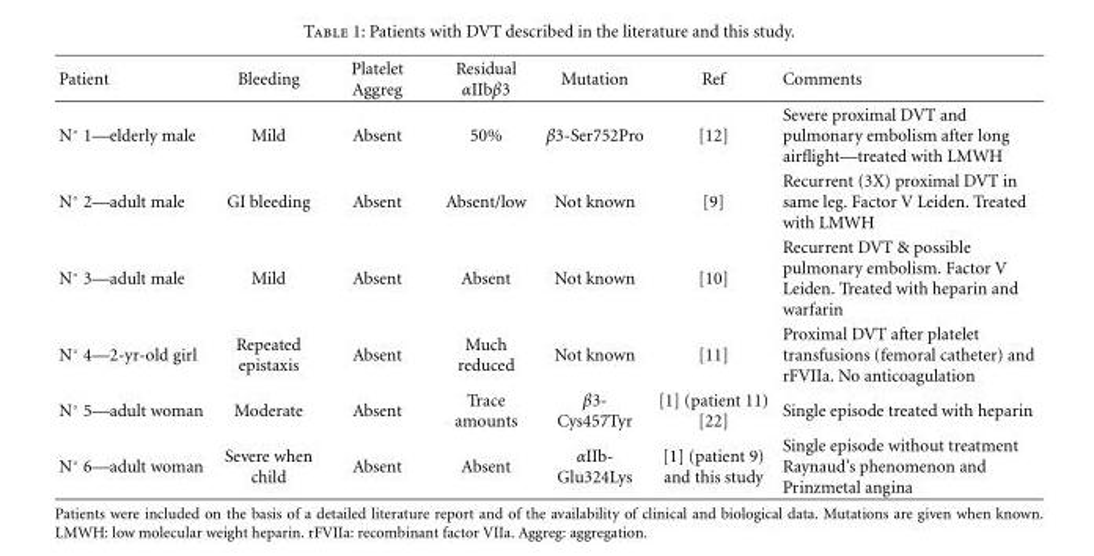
<table><thead><tr><td>Patient</td><td>Bleeding</td><td>Platelet Aggreg</td><td>Residual αIIbβ3</td><td>Mutation</td><td>Ref</td><td>Comments</td></tr></thead><tbody><tr><td>N◦ 1—elderly male</td><td>Mild</td><td>Absent</td><td>50%</td><td>β3-Ser752Pro</td><td>[12]</td><td>Severe proximal DVT and pulmonary embolism after long airflight—treated with LMWH</td></tr><tr><td>N◦ 2—adult male</td><td>GI bleeding</td><td>Absent</td><td>Absent/low</td><td>Not known</td><td>[9]</td><td>Recurrent (3X) proximal DVT in same leg. Factor V Leiden. Treated with LMWH</td></tr><tr><td>N◦ 3—adult male</td><td>Mild</td><td>Absent</td><td>Absent</td><td>Not known</td><td>[10]</td><td>Recurrent DVT &amp; possible pulmonary embolism. Factor V Leiden. Treated with heparin and warfarin</td></tr><tr><td>N◦ 4—2-yr-old girl</td><td>Repeated epistaxis</td><td>Absent</td><td>Much reduced</td><td>Not known</td><td>[11]</td><td>Proximal DVT after platelet transfusions (femoral catheter) and rFVIIa. No anticoagulation</td></tr><tr><td>N◦ 5—adult woman</td><td>Moderate</td><td>Absent</td><td>Trace amounts</td><td>β3- Cys457Tyr</td><td>[1] (patient 11) [22]</td><td>Single episode treated with heparin</td></tr><tr><td>N◦ 6—adult woman</td><td>Severe when child</td><td>Absent</td><td>Absent</td><td>αIIb- Glu324Lys</td><td>[1] (patient 9) and this study</td><td>Single episode without treatment Raynaud’s phenomenon and Prinzmetal angina</td></tr></tbody></table>